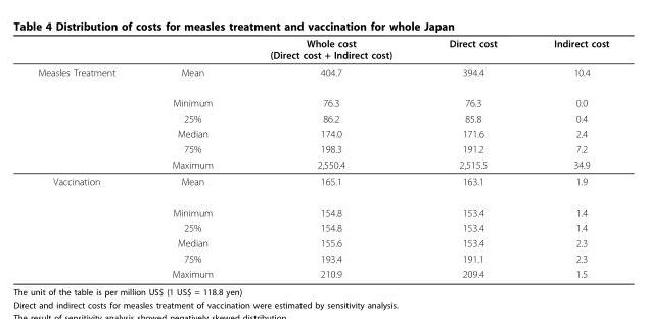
<table><thead><tr><td></td><td></td><td>Whole cost (Direct cost + Indirect cost)</td><td>Direct cost</td><td>Indirect cost</td></tr></thead><tbody><tr><td rowspan="6">Measles Treatment</td><td>Mean</td><td>404.7</td><td>394.4</td><td>10.4</td></tr><tr><td>Minimum</td><td>76.3</td><td>76.3</td><td>0.0</td></tr><tr><td>25%</td><td>86.2</td><td>85.8</td><td>0.4</td></tr><tr><td>Median</td><td>174.0</td><td>171.6</td><td>2.4</td></tr><tr><td>75%</td><td>198.3</td><td>191.2</td><td>7.2</td></tr><tr><td>Maximum</td><td>2,550.4</td><td>2,515.5</td><td>34.9</td></tr><tr><td rowspan="6">Vaccination</td><td>Mean</td><td>165.1</td><td>163.1</td><td>1.9</td></tr><tr><td>Minimum</td><td>154.8</td><td>153.4</td><td>1.4</td></tr><tr><td>25%</td><td>154.8</td><td>153.4</td><td>1.4</td></tr><tr><td>Median</td><td>155.6</td><td>153.4</td><td>2.3</td></tr><tr><td>75%</td><td>193.4</td><td>191.1</td><td>2.3</td></tr><tr><td>Maximum</td><td>210.9</td><td>209.4</td><td>1.5</td></tr></tbody></table>